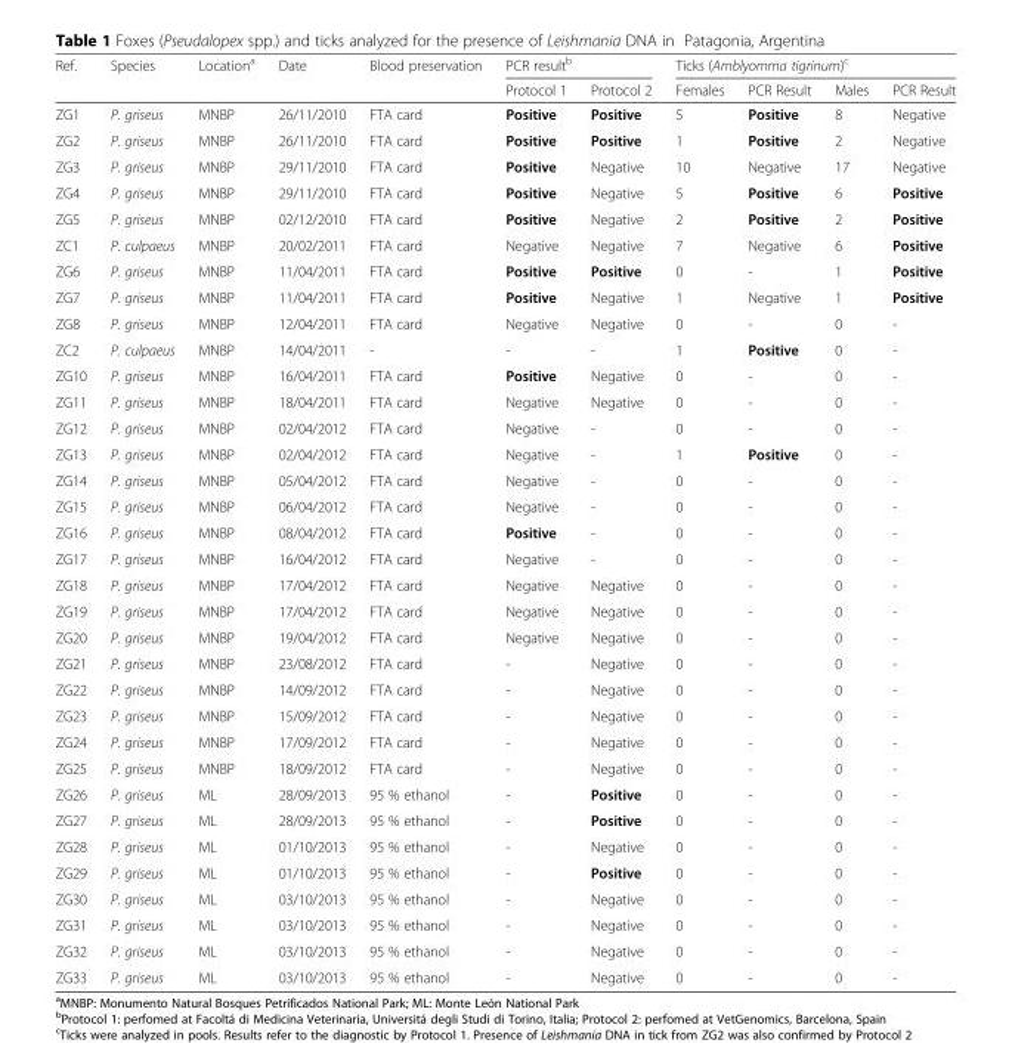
<table><thead><tr><td rowspan="2">Ref.</td><td rowspan="2">Species</td><td rowspan="2">Location<sup>a</sup></td><td rowspan="2">Date</td><td rowspan="2">Blood preservation</td><td colspan="2">PCR result<sup>b</sup></td><td colspan="4">Ticks (Amblyomma tigrinum)<sup>c</sup></td></tr><tr><td>Protocol 1</td><td>Protocol 2</td><td>Females</td><td>PCR Result</td><td>Males</td><td>PCR Result</td></tr></thead><tbody><tr><td>ZG1</td><td>P. griseus</td><td>MNBP</td><td>26/11/2010</td><td>FTA card</td><td>Positive</td><td>Positive</td><td>5</td><td>Positive</td><td>8</td><td>Negative</td></tr><tr><td>ZG2</td><td>P. griseus</td><td>MNBP</td><td>26/11/2010</td><td>FTA card</td><td>Positive</td><td>Positive</td><td>1</td><td>Positive</td><td>2</td><td>Negative</td></tr><tr><td>ZG3</td><td>P. griseus</td><td>MNBP</td><td>29/11/2010</td><td>FTA card</td><td>Positive</td><td>Negative</td><td>10</td><td>Negative</td><td>17</td><td>Negative</td></tr><tr><td>ZG4</td><td>P. griseus</td><td>MNBP</td><td>29/11/2010</td><td>FTA card</td><td>Positive</td><td>Negative</td><td>5</td><td>Positive</td><td>6</td><td>Positive</td></tr><tr><td>ZG5</td><td>P. griseus</td><td>MNBP</td><td>02/12/2010</td><td>FTA card</td><td>Positive</td><td>Negative</td><td>2</td><td>Positive</td><td>2</td><td>Positive</td></tr><tr><td>ZC1</td><td>P. culpaeus</td><td>MNBP</td><td>20/02/2011</td><td>FTA card</td><td>Negative</td><td>Negative</td><td>7</td><td>Negative</td><td>6</td><td>Positive</td></tr><tr><td>ZG6</td><td>P. griseus</td><td>MNBP</td><td>11/04/2011</td><td>FTA card</td><td>Positive</td><td>Positive</td><td>0</td><td>-</td><td>1</td><td>Positive</td></tr><tr><td>ZG7</td><td>P. griseus</td><td>MNBP</td><td>11/04/2011</td><td>FTA card</td><td>Positive</td><td>Negative</td><td>1</td><td>Negative</td><td>1</td><td>Positive</td></tr><tr><td>ZG8</td><td>P. griseus</td><td>MNBP</td><td>12/04/2011</td><td>FTA card</td><td>Negative</td><td>Negative</td><td>0</td><td>-</td><td>0</td><td>-</td></tr><tr><td>ZC2</td><td>P. culpaeus</td><td>MNBP</td><td>14/04/2011</td><td>-</td><td>-</td><td>-</td><td>1</td><td>Positive</td><td>0</td><td>-</td></tr><tr><td>ZG10</td><td>P. griseus</td><td>MNBP</td><td>16/04/2011</td><td>FTA card</td><td>Positive</td><td>Negative</td><td>0</td><td>-</td><td>0</td><td>-</td></tr><tr><td>ZG11</td><td>P. griseus</td><td>MNBP</td><td>18/04/2011</td><td>FTA card</td><td>Negative</td><td>Negative</td><td>0</td><td>-</td><td>0</td><td>-</td></tr><tr><td>ZG12</td><td>P. griseus</td><td>MNBP</td><td>02/04/2012</td><td>FTA card</td><td>Negative</td><td>-</td><td>0</td><td>-</td><td>0</td><td>-</td></tr><tr><td>ZG13</td><td>P. griseus</td><td>MNBP</td><td>02/04/2012</td><td>FTA card</td><td>Negative</td><td>-</td><td>1</td><td>Positive</td><td>0</td><td>-</td></tr><tr><td>ZG14</td><td>P. griseus</td><td>MNBP</td><td>05/04/2012</td><td>FTA card</td><td>Negative</td><td>-</td><td>0</td><td>-</td><td>0</td><td>-</td></tr><tr><td>ZG15</td><td>P. griseus</td><td>MNBP</td><td>06/04/2012</td><td>FTA card</td><td>Negative</td><td>-</td><td>0</td><td>-</td><td>0</td><td>-</td></tr><tr><td>ZG16</td><td>P. griseus</td><td>MNBP</td><td>08/04/2012</td><td>FTA card</td><td>Positive</td><td>-</td><td>0</td><td>-</td><td>0</td><td>-</td></tr><tr><td>ZG17</td><td>P. griseus</td><td>MNBP</td><td>16/04/2012</td><td>FTA card</td><td>Negative</td><td>-</td><td>0</td><td>-</td><td>0</td><td>-</td></tr><tr><td>ZG18</td><td>P. griseus</td><td>MNBP</td><td>17/04/2012</td><td>FTA card</td><td>Negative</td><td>Negative</td><td>0</td><td>-</td><td>0</td><td>-</td></tr><tr><td>ZG19</td><td>P. griseus</td><td>MNBP</td><td>17/04/2012</td><td>FTA card</td><td>Negative</td><td>Negative</td><td>0</td><td>-</td><td>0</td><td>-</td></tr><tr><td>ZG20</td><td>P. griseus</td><td>MNBP</td><td>19/04/2012</td><td>FTA card</td><td>Negative</td><td>Negative</td><td>0</td><td>-</td><td>0</td><td>-</td></tr><tr><td>ZG21</td><td>P. griseus</td><td>MNBP</td><td>23/08/2012</td><td>FTA card</td><td>-</td><td>Negative</td><td>0</td><td>-</td><td>0</td><td>-</td></tr><tr><td>ZG22</td><td>P. griseus</td><td>MNBP</td><td>14/09/2012</td><td>FTA card</td><td>-</td><td>Negative</td><td>0</td><td>-</td><td>0</td><td>-</td></tr><tr><td>ZG23</td><td>P. griseus</td><td>MNBP</td><td>15/09/2012</td><td>FTA card</td><td>-</td><td>Negative</td><td>0</td><td>-</td><td>0</td><td>-</td></tr><tr><td>ZG24</td><td>P. griseus</td><td>MNBP</td><td>17/09/2012</td><td>FTA card</td><td>-</td><td>Negative</td><td>0</td><td>-</td><td>0</td><td>-</td></tr><tr><td>ZG25</td><td>P. griseus</td><td>MNBP</td><td>18/09/2012</td><td>FTA card</td><td>-</td><td>Negative</td><td>0</td><td>-</td><td>0</td><td>-</td></tr><tr><td>ZG26</td><td>P. griseus</td><td>ML</td><td>28/09/2013</td><td>95 % ethanol</td><td>-</td><td>Positive</td><td>0</td><td>-</td><td>0</td><td>-</td></tr><tr><td>ZG27</td><td>P. griseus</td><td>ML</td><td>28/09/2013</td><td>95 % ethanol</td><td>-</td><td>Positive</td><td>0</td><td>-</td><td>0</td><td>-</td></tr><tr><td>ZG28</td><td>P. griseus</td><td>ML</td><td>01/10/2013</td><td>95 % ethanol</td><td>-</td><td>Negative</td><td>0</td><td>-</td><td>0</td><td>-</td></tr><tr><td>ZG29</td><td>P. griseus</td><td>ML</td><td>01/10/2013</td><td>95 % ethanol</td><td>-</td><td>Positive</td><td>0</td><td>-</td><td>0</td><td>-</td></tr><tr><td>ZG30</td><td>P. griseus</td><td>ML</td><td>03/10/2013</td><td>95 % ethanol</td><td>-</td><td>Negative</td><td>0</td><td>-</td><td>0</td><td>-</td></tr><tr><td>ZG31</td><td>P. griseus</td><td>ML</td><td>03/10/2013</td><td>95 % ethanol</td><td>-</td><td>Negative</td><td>0</td><td>-</td><td>0</td><td>-</td></tr><tr><td>ZG32</td><td>P. griseus</td><td>ML</td><td>03/10/2013</td><td>95 % ethanol</td><td>-</td><td>Negative</td><td>0</td><td>-</td><td>0</td><td>-</td></tr><tr><td>ZG33</td><td>P. griseus</td><td>ML</td><td>03/10/2013</td><td>95 % ethanol</td><td>-</td><td>Negative</td><td>0</td><td>-</td><td>0</td><td>-</td></tr></tbody></table>